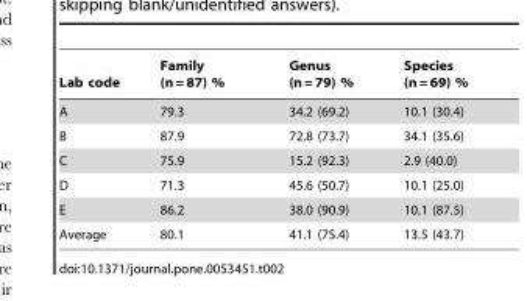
<table><thead><tr><td>Lab code</td><td>Family (n = 87) %</td><td>Genus (n = 79) %</td><td>Species (n = 69) %</td></tr></thead><tbody><tr><td>A</td><td>79.3</td><td>34.2 (69.2)</td><td>10.1 (30.4)</td></tr><tr><td>B</td><td>87.9</td><td>72.8 (73.7)</td><td>34.1 (35.6)</td></tr><tr><td>C</td><td>75.9</td><td>15.2 (92.3)</td><td>2.9 (40.0)</td></tr><tr><td>D</td><td>71.3</td><td>45.6 (50.7)</td><td>10.1 (25.0)</td></tr><tr><td>E</td><td>86.2</td><td>38.0 (90.9)</td><td>10.1 (87.5)</td></tr><tr><td>Average</td><td>80.1</td><td>41.1 (75.4)</td><td>13.5 (43.7)</td></tr></tbody></table>